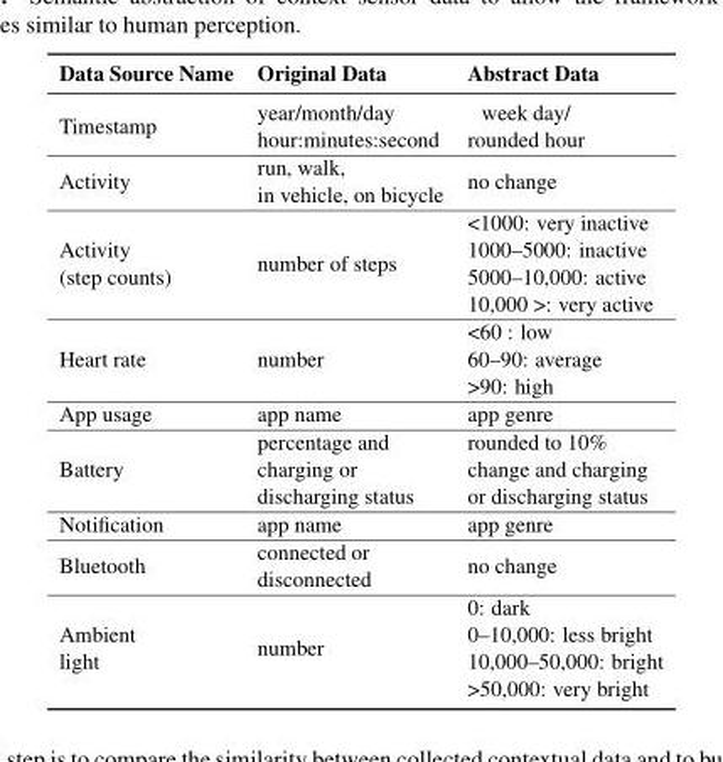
<table><thead><tr><td>Data Source Name</td><td>Original Data</td><td>Abstract Data</td></tr></thead><tbody><tr><td>Timestamp</td><td>year/month/day hour:minutes:second</td><td>week day/ rounded hour</td></tr><tr><td>Activity</td><td>run, walk, in vehicle, on bicycle</td><td>no change</td></tr><tr><td>Activity (step counts)</td><td>number of steps</td><td>&lt;1000: very inactive 1000–5000: inactive 5000–10,000: active 10,000 &gt;: very active</td></tr><tr><td>Heart rate</td><td>number</td><td>&lt;60 : low 60–90: average &gt;90: high</td></tr><tr><td>App usage</td><td>app name</td><td>app genre</td></tr><tr><td>Battery</td><td>percentage and charging or discharging status</td><td>rounded to 10% change and charging or discharging status</td></tr><tr><td>Notification</td><td>app name</td><td>app genre</td></tr><tr><td>Bluetooth</td><td>connected or disconnected</td><td>no change</td></tr><tr><td>Ambient light</td><td>number</td><td>0: dark 0–10,000: less bright 10,000–50,000: bright &gt;50,000: very bright</td></tr></tbody></table>